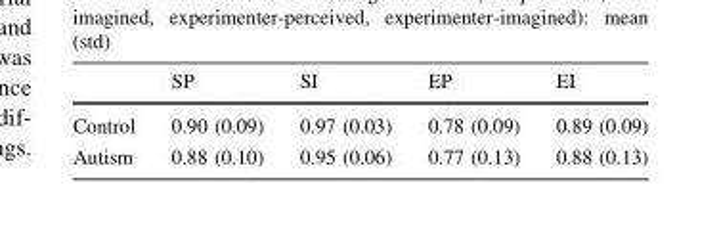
<table><thead><tr><td></td><td>SP</td><td>SI</td><td>EP</td><td>EI</td></tr></thead><tbody><tr><td>Control</td><td>0.90 (0.09)</td><td>0.97 (0.03)</td><td>0.78 (0.09)</td><td>0.89 (0.09)</td></tr><tr><td>Autism</td><td>0.88 (0.10)</td><td>0.95 (0.06)</td><td>0.77 (0.13)</td><td>0.88 (0.13)</td></tr></tbody></table>